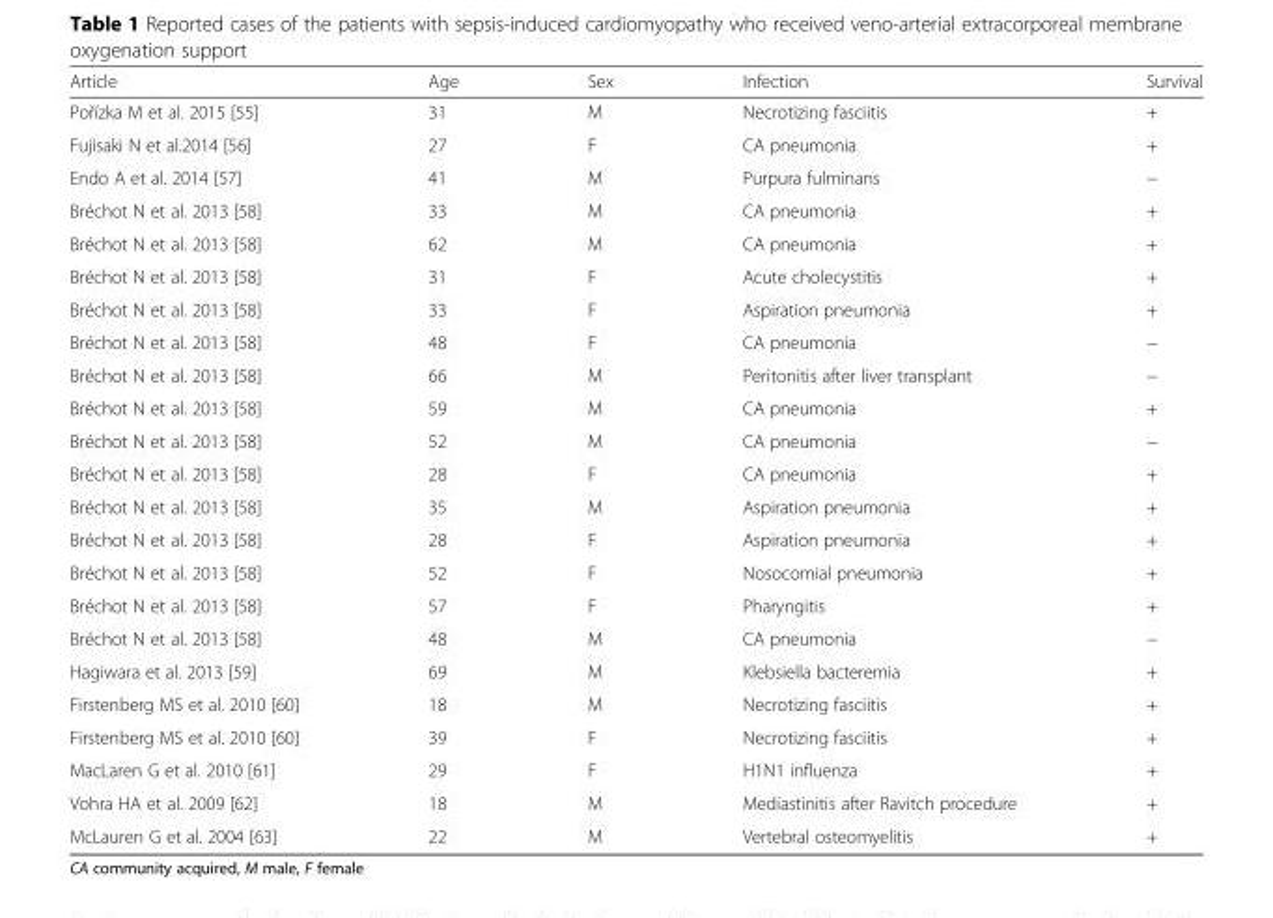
<table><thead><tr><td>Article</td><td>Age</td><td>Sex</td><td>Infection</td><td>Survival</td></tr></thead><tbody><tr><td>Pořízka M et al. 2015 [55]</td><td>31</td><td>M</td><td>Necrotizing fasciitis</td><td>+</td></tr><tr><td>Fujisaki N et al.2014 [56]</td><td>27</td><td>F</td><td>CA pneumonia</td><td>+</td></tr><tr><td>Endo A et al. 2014 [57]</td><td>41</td><td>M</td><td>Purpura fulminans</td><td>−</td></tr><tr><td>Bréchot N et al. 2013 [58]</td><td>33</td><td>M</td><td>CA pneumonia</td><td>+</td></tr><tr><td>Bréchot N et al. 2013 [58]</td><td>62</td><td>M</td><td>CA pneumonia</td><td>+</td></tr><tr><td>Bréchot N et al. 2013 [58]</td><td>31</td><td>F</td><td>Acute cholecystitis</td><td>+</td></tr><tr><td>Bréchot N et al. 2013 [58]</td><td>33</td><td>F</td><td>Aspiration pneumonia</td><td>+</td></tr><tr><td>Bréchot N et al. 2013 [58]</td><td>48</td><td>F</td><td>CA pneumonia</td><td>−</td></tr><tr><td>Bréchot N et al. 2013 [58]</td><td>66</td><td>M</td><td>Peritonitis after liver transplant</td><td>−</td></tr><tr><td>Bréchot N et al. 2013 [58]</td><td>59</td><td>M</td><td>CA pneumonia</td><td>+</td></tr><tr><td>Bréchot N et al. 2013 [58]</td><td>52</td><td>M</td><td>CA pneumonia</td><td>−</td></tr><tr><td>Bréchot N et al. 2013 [58]</td><td>28</td><td>F</td><td>CA pneumonia</td><td>+</td></tr><tr><td>Bréchot N et al. 2013 [58]</td><td>35</td><td>M</td><td>Aspiration pneumonia</td><td>+</td></tr><tr><td>Bréchot N et al. 2013 [58]</td><td>28</td><td>F</td><td>Aspiration pneumonia</td><td>+</td></tr><tr><td>Bréchot N et al. 2013 [58]</td><td>52</td><td>F</td><td>Nosocomial pneumonia</td><td>+</td></tr><tr><td>Bréchot N et al. 2013 [58]</td><td>57</td><td>F</td><td>Pharyngitis</td><td>+</td></tr><tr><td>Bréchot N et al. 2013 [58]</td><td>48</td><td>M</td><td>CA pneumonia</td><td>−</td></tr><tr><td>Hagiwara et al. 2013 [59]</td><td>69</td><td>M</td><td>Klebsiella bacteremia</td><td>+</td></tr><tr><td>Firstenberg MS et al. 2010 [60]</td><td>18</td><td>M</td><td>Necrotizing fasciitis</td><td>+</td></tr><tr><td>Firstenberg MS et al. 2010 [60]</td><td>39</td><td>F</td><td>Necrotizing fasciitis</td><td>+</td></tr><tr><td>MacLaren G et al. 2010 [61]</td><td>29</td><td>F</td><td>H1N1 influenza</td><td>+</td></tr><tr><td>Vohra HA et al. 2009 [62]</td><td>18</td><td>M</td><td>Mediastinitis after Ravitch procedure</td><td>+</td></tr><tr><td>McLauren G et al. 2004 [63]</td><td>22</td><td>M</td><td>Vertebral osteomyelitis</td><td>+</td></tr></tbody></table>